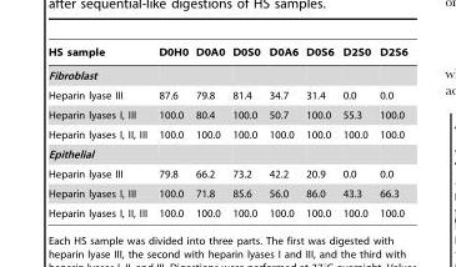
<table><thead><tr><td>HS sample</td><td>D0H0</td><td>D0A0</td><td>D0S0</td><td>D0A6</td><td>D0S6</td><td>D2S0</td><td>D2S6</td></tr></thead><tbody><tr><td colspan="8">Fibroblast</td></tr><tr><td>Heparin lyase III</td><td>87.6</td><td>79.8</td><td>81.4</td><td>34.7</td><td>31.4</td><td>0.0</td><td>0.0</td></tr><tr><td>Heparin lyases I, III</td><td>100.0</td><td>80.4</td><td>100.0</td><td>50.7</td><td>100.0</td><td>55.3</td><td>100.0</td></tr><tr><td>Heparin lyases I, II, III</td><td>100.0</td><td>100.0</td><td>100.0</td><td>100.0</td><td>100.0</td><td>100.0</td><td>100.0</td></tr><tr><td colspan="8">Epithelial</td></tr><tr><td>Heparin lyase III</td><td>79.8</td><td>66.2</td><td>73.2</td><td>42.2</td><td>20.9</td><td>0.0</td><td>0.0</td></tr><tr><td>Heparin lyases I, III</td><td>100.0</td><td>71.8</td><td>85.6</td><td>56.0</td><td>86.0</td><td>43.3</td><td>66.3</td></tr><tr><td>Heparin lyases I, II, III</td><td>100.0</td><td>100.0</td><td>100.0</td><td>100.0</td><td>100.0</td><td>100.0</td><td>100.0</td></tr></tbody></table>